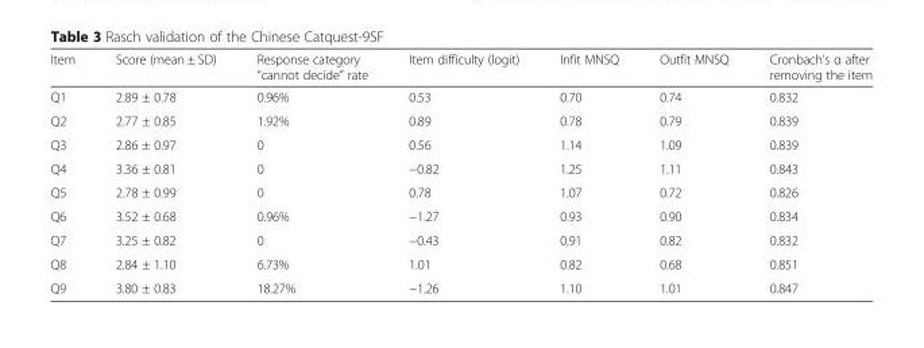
<table><thead><tr><td>Item</td><td>Score (mean ± SD)</td><td>Response category “cannot decide” rate</td><td>Item difficulty (logit)</td><td>Infit MNSQ</td><td>Outfit MNSQ</td><td>Cronbach’s α after removing the item</td></tr></thead><tbody><tr><td>Q1</td><td>2.89 ± 0.78</td><td>0.96%</td><td>0.53</td><td>0.70</td><td>0.74</td><td>0.832</td></tr><tr><td>Q2</td><td>2.77 ± 0.85</td><td>1.92%</td><td>0.89</td><td>0.78</td><td>0.79</td><td>0.839</td></tr><tr><td>Q3</td><td>2.86 ± 0.97</td><td>0</td><td>0.56</td><td>1.14</td><td>1.09</td><td>0.839</td></tr><tr><td>Q4</td><td>3.36 ± 0.81</td><td>0</td><td>−0.82</td><td>1.25</td><td>1.11</td><td>0.843</td></tr><tr><td>Q5</td><td>2.78 ± 0.99</td><td>0</td><td>0.78</td><td>1.07</td><td>0.72</td><td>0.826</td></tr><tr><td>Q6</td><td>3.52 ± 0.68</td><td>0.96%</td><td>−1.27</td><td>0.93</td><td>0.90</td><td>0.834</td></tr><tr><td>Q7</td><td>3.25 ± 0.82</td><td>0</td><td>−0.43</td><td>0.91</td><td>0.82</td><td>0.832</td></tr><tr><td>Q8</td><td>2.84 ± 1.10</td><td>6.73%</td><td>1.01</td><td>0.82</td><td>0.68</td><td>0.851</td></tr><tr><td>Q9</td><td>3.80 ± 0.83</td><td>18.27%</td><td>−1.26</td><td>1.10</td><td>1.01</td><td>0.847</td></tr></tbody></table>